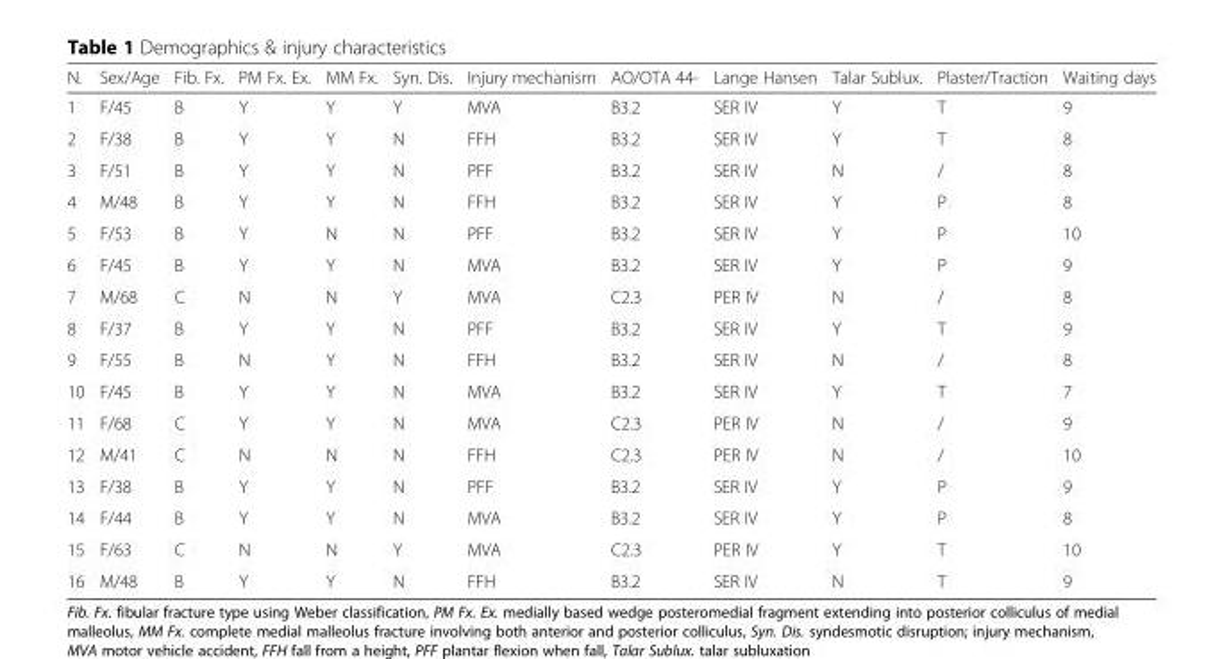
<table><thead><tr><td>N.</td><td>Sex/Age</td><td>Fib. Fx.</td><td>PM Fx. Ex.</td><td>MM Fx.</td><td>Syn. Dis.</td><td>Injury mechanism</td><td>AO/OTA 44-</td><td>Lange Hansen</td><td>Talar Sublux.</td><td>Plaster/Traction</td><td>Waiting days</td></tr></thead><tbody><tr><td>1</td><td>F/45</td><td>B</td><td>Y</td><td>Y</td><td>Y</td><td>MVA</td><td>B3.2</td><td>SER IV</td><td>Y</td><td>T</td><td>9</td></tr><tr><td>2</td><td>F/38</td><td>B</td><td>Y</td><td>Y</td><td>N</td><td>FFH</td><td>B3.2</td><td>SER IV</td><td>Y</td><td>T</td><td>8</td></tr><tr><td>3</td><td>F/51</td><td>B</td><td>Y</td><td>Y</td><td>N</td><td>PFF</td><td>B3.2</td><td>SER IV</td><td>N</td><td>/</td><td>8</td></tr><tr><td>4</td><td>M/48</td><td>B</td><td>Y</td><td>Y</td><td>N</td><td>FFH</td><td>B3.2</td><td>SER IV</td><td>Y</td><td>P</td><td>8</td></tr><tr><td>5</td><td>F/53</td><td>B</td><td>Y</td><td>N</td><td>N</td><td>PFF</td><td>B3.2</td><td>SER IV</td><td>Y</td><td>P</td><td>10</td></tr><tr><td>6</td><td>F/45</td><td>B</td><td>Y</td><td>Y</td><td>N</td><td>MVA</td><td>B3.2</td><td>SER IV</td><td>Y</td><td>P</td><td>9</td></tr><tr><td>7</td><td>M/68</td><td>C</td><td>N</td><td>N</td><td>Y</td><td>MVA</td><td>C2.3</td><td>PER IV</td><td>N</td><td>/</td><td>8</td></tr><tr><td>8</td><td>F/37</td><td>B</td><td>Y</td><td>Y</td><td>N</td><td>PFF</td><td>B3.2</td><td>SER IV</td><td>Y</td><td>T</td><td>9</td></tr><tr><td>9</td><td>F/55</td><td>B</td><td>N</td><td>Y</td><td>N</td><td>FFH</td><td>B3.2</td><td>SER IV</td><td>N</td><td>/</td><td>8</td></tr><tr><td>10</td><td>F/45</td><td>B</td><td>Y</td><td>Y</td><td>N</td><td>MVA</td><td>B3.2</td><td>SER IV</td><td>Y</td><td>T</td><td>7</td></tr><tr><td>11</td><td>F/68</td><td>C</td><td>Y</td><td>Y</td><td>N</td><td>MVA</td><td>C2.3</td><td>PER IV</td><td>N</td><td>/</td><td>9</td></tr><tr><td>12</td><td>M/41</td><td>C</td><td>N</td><td>N</td><td>N</td><td>FFH</td><td>C2.3</td><td>PER IV</td><td>N</td><td>/</td><td>10</td></tr><tr><td>13</td><td>F/38</td><td>B</td><td>Y</td><td>Y</td><td>N</td><td>PFF</td><td>B3.2</td><td>SER IV</td><td>Y</td><td>P</td><td>9</td></tr><tr><td>14</td><td>F/44</td><td>B</td><td>Y</td><td>Y</td><td>N</td><td>MVA</td><td>B3.2</td><td>SER IV</td><td>Y</td><td>P</td><td>8</td></tr><tr><td>15</td><td>F/63</td><td>C</td><td>N</td><td>N</td><td>Y</td><td>MVA</td><td>C2.3</td><td>PER IV</td><td>Y</td><td>T</td><td>10</td></tr><tr><td>16</td><td>M/48</td><td>B</td><td>Y</td><td>Y</td><td>N</td><td>FFH</td><td>B3.2</td><td>SER IV</td><td>N</td><td>T</td><td>9</td></tr></tbody></table>